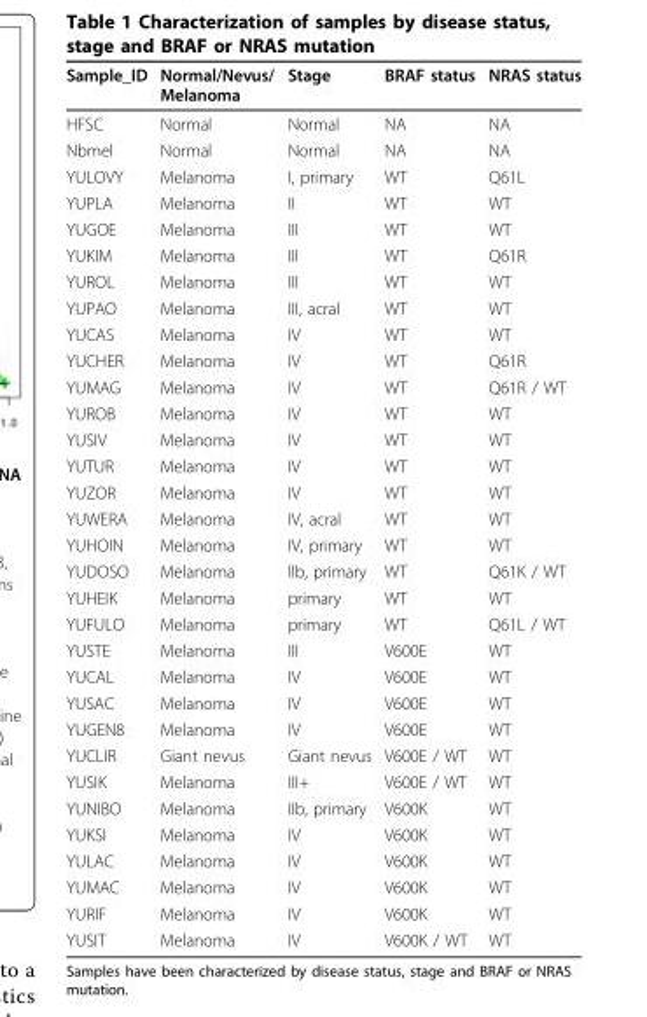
<table><thead><tr><td>Sample_ID</td><td>Normal/Nevus/ Melanoma</td><td>Stage</td><td>BRAF status</td><td>NRAS status</td></tr></thead><tbody><tr><td>HFSC</td><td>Normal</td><td>Normal</td><td>NA</td><td>NA</td></tr><tr><td>Nbmel</td><td>Normal</td><td>Normal</td><td>NA</td><td>NA</td></tr><tr><td>YULOVY</td><td>Melanoma</td><td>I, primary</td><td>WT</td><td>Q61L</td></tr><tr><td>YUPLA</td><td>Melanoma</td><td>II</td><td>WT</td><td>WT</td></tr><tr><td>YUGOE</td><td>Melanoma</td><td>III</td><td>WT</td><td>WT</td></tr><tr><td>YUKIM</td><td>Melanoma</td><td>III</td><td>WT</td><td>Q61R</td></tr><tr><td>YUROL</td><td>Melanoma</td><td>III</td><td>WT</td><td>WT</td></tr><tr><td>YUPAO</td><td>Melanoma</td><td>III, acral</td><td>WT</td><td>WT</td></tr><tr><td>YUCAS</td><td>Melanoma</td><td>IV</td><td>WT</td><td>WT</td></tr><tr><td>YUCHER</td><td>Melanoma</td><td>IV</td><td>WT</td><td>Q61R</td></tr><tr><td>YUMAG</td><td>Melanoma</td><td>IV</td><td>WT</td><td>Q61R / WT</td></tr><tr><td>YUROB</td><td>Melanoma</td><td>IV</td><td>WT</td><td>WT</td></tr><tr><td>YUSIV</td><td>Melanoma</td><td>IV</td><td>WT</td><td>WT</td></tr><tr><td>YUTUR</td><td>Melanoma</td><td>IV</td><td>WT</td><td>WT</td></tr><tr><td>YUZOR</td><td>Melanoma</td><td>IV</td><td>WT</td><td>WT</td></tr><tr><td>YUWERA</td><td>Melanoma</td><td>IV, acral</td><td>WT</td><td>WT</td></tr><tr><td>YUHOIN</td><td>Melanoma</td><td>IV, primary</td><td>WT</td><td>WT</td></tr><tr><td>YUDOSO</td><td>Melanoma</td><td>llb, primary</td><td>WT</td><td>Q61K / WT</td></tr><tr><td>YUHEIK</td><td>Melanoma</td><td>primary</td><td>WT</td><td>WT</td></tr><tr><td>YUFULO</td><td>Melanoma</td><td>primary</td><td>WT</td><td>Q61L / WT</td></tr><tr><td>YUSTE</td><td>Melanoma</td><td>III</td><td>V600E</td><td>WT</td></tr><tr><td>YUCAL</td><td>Melanoma</td><td>IV</td><td>V600E</td><td>WT</td></tr><tr><td>YUSAC</td><td>Melanoma</td><td>IV</td><td>V600E</td><td>WT</td></tr><tr><td>YUGEN8</td><td>Melanoma</td><td>IV</td><td>V600E</td><td>WT</td></tr><tr><td>YUCLIR</td><td>Giant nevus</td><td>Giant nevus</td><td>V600E / WT</td><td>WT</td></tr><tr><td>YUSIK</td><td>Melanoma</td><td>III+</td><td>V600E / WT</td><td>WT</td></tr><tr><td>YUNIBO</td><td>Melanoma</td><td>IIb, primary</td><td>V600K</td><td>WT</td></tr><tr><td>YUKSI</td><td>Melanoma</td><td>IV</td><td>V600K</td><td>WT</td></tr><tr><td>YULAC</td><td>Melanoma</td><td>IV</td><td>V600K</td><td>WT</td></tr><tr><td>YUMAC</td><td>Melanoma</td><td>IV</td><td>V600K</td><td>WT</td></tr><tr><td>YURIF</td><td>Melanoma</td><td>IV</td><td>V600K</td><td>WT</td></tr><tr><td>YUSIT</td><td>Melanoma</td><td>IV</td><td>V600K / WT</td><td>WT</td></tr></tbody></table>